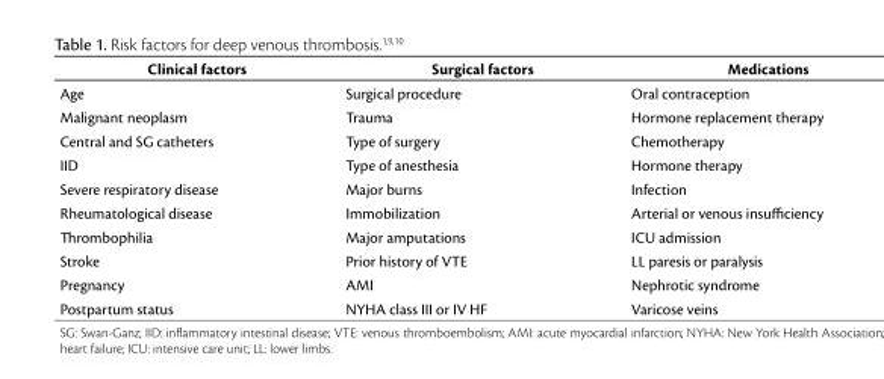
<table><thead><tr><td>Clinical factors</td><td>Surgical factors</td><td>Medications</td></tr></thead><tbody><tr><td>Age</td><td>Surgical procedure</td><td>Oral contraception</td></tr><tr><td>Malignant neoplasm</td><td>Trauma</td><td>Hormone replacement therapy</td></tr><tr><td>Central and SG catheters</td><td>Type of surgery</td><td>Chemotherapy</td></tr><tr><td>IID</td><td>Type of anesthesia</td><td>Hormone therapy</td></tr><tr><td>Severe respiratory disease</td><td>Major burns</td><td>Infection</td></tr><tr><td>Rheumatological disease</td><td>Immobilization</td><td>Arterial or venous insufficiency</td></tr><tr><td>Thrombophilia</td><td>Major amputations</td><td>ICU admission</td></tr><tr><td>Stroke</td><td>Prior history of VTE</td><td>LL paresis or paralysis</td></tr><tr><td>Pregnancy</td><td>AMI</td><td>Nephrotic syndrome</td></tr><tr><td>Postpartum status</td><td>NYHA class III or IV HF</td><td>Varicose veins</td></tr></tbody></table>